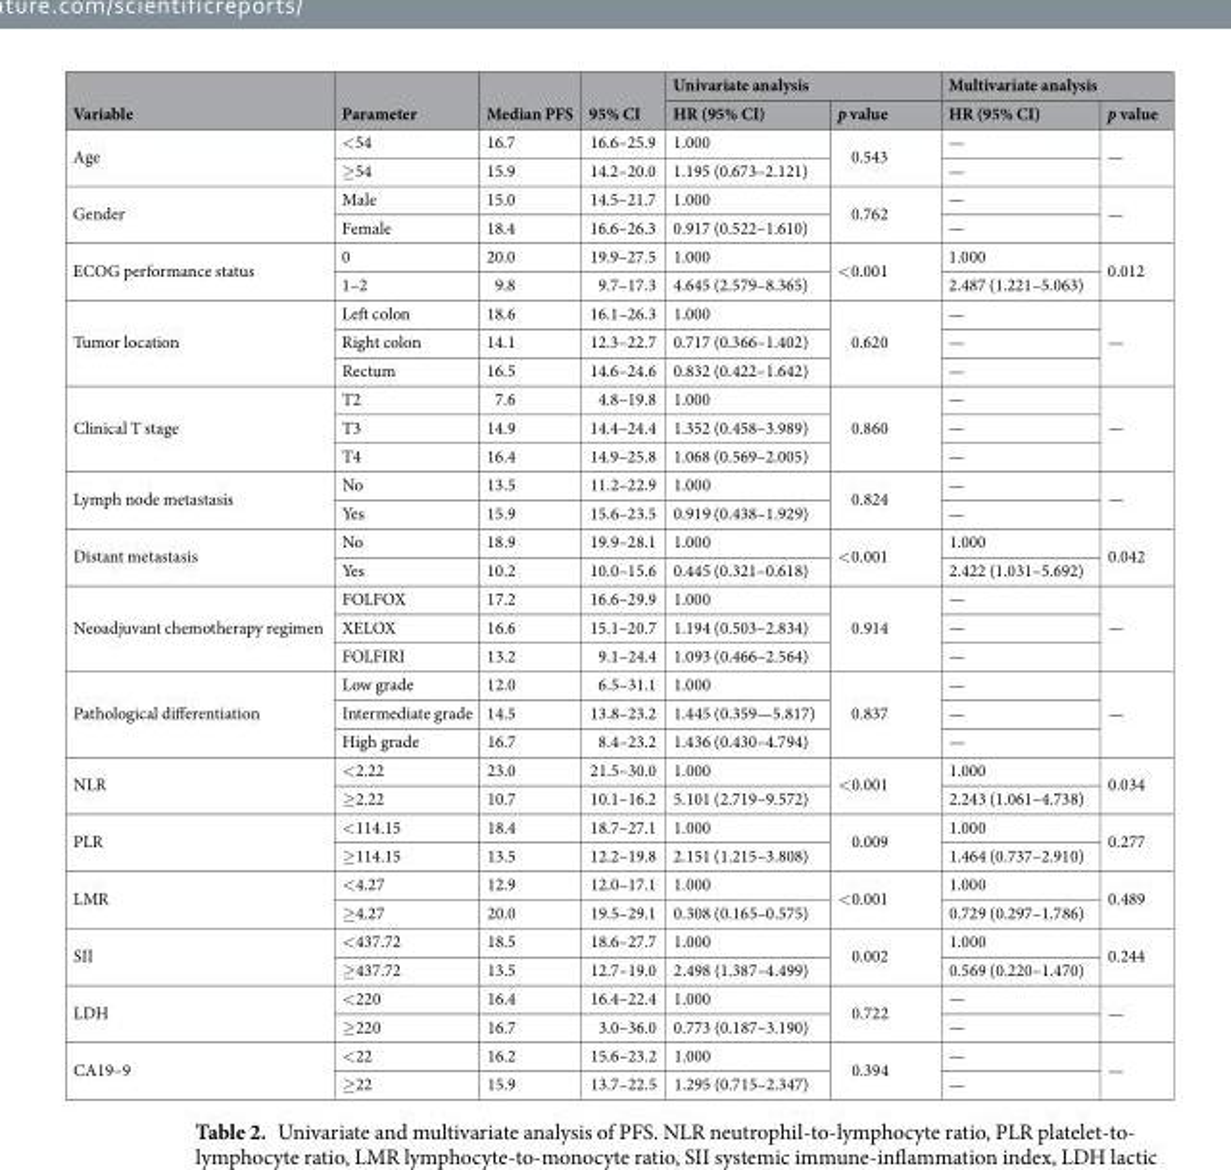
<table><thead><tr><td rowspan="2">Variable</td><td rowspan="2">Parameter</td><td rowspan="2">Median PFS</td><td rowspan="2">95% CI</td><td colspan="2">Univariate analysis</td><td colspan="2">Multivariate analysis</td></tr><tr><td>HR (95% CI)</td><td>p value</td><td>HR (95% CI)</td><td>p value</td></tr></thead><tbody><tr><td rowspan="2">Age</td><td>&lt;54</td><td>16.7</td><td>16.6–25.9</td><td>1.000</td><td rowspan="2">0.543</td><td>—</td><td rowspan="2">—</td></tr><tr><td>≥54</td><td>15.9</td><td>14.2–20.0</td><td>1.195 (0.673–2.121)</td><td>—</td></tr><tr><td rowspan="2">Gender</td><td>Male</td><td>15.0</td><td>14.5–21.7</td><td>1.000</td><td rowspan="2">0.762</td><td>—</td><td rowspan="2">—</td></tr><tr><td>Female</td><td>18.4</td><td>16.6–26.3</td><td>0.917 (0.522–1.610)</td><td>—</td></tr><tr><td rowspan="2">ECOG performance status</td><td>0</td><td>20.0</td><td>19.9–27.5</td><td>1.000</td><td rowspan="2">&lt;0.001</td><td>1.000</td><td rowspan="2">0.012</td></tr><tr><td>1–2</td><td>9.8</td><td>9.7–17.3</td><td>4.645 (2.579–8.365)</td><td>2.487 (1.221–5.063)</td></tr><tr><td rowspan="3">Tumor location</td><td>Left colon</td><td>18.6</td><td>16.1–26.3</td><td>1.000</td><td rowspan="3">0.620</td><td>—</td><td rowspan="3">—</td></tr><tr><td>Right colon</td><td>14.1</td><td>12.3–22.7</td><td>0.717 (0.366–1.402)</td><td>—</td></tr><tr><td>Rectum</td><td>16.5</td><td>14.6–24.6</td><td>0.832 (0.422–1.642)</td><td>—</td></tr><tr><td rowspan="3">Clinical T stage</td><td>T2</td><td>7.6</td><td>4.8–19.8</td><td>1.000</td><td rowspan="3">0.860</td><td>—</td><td rowspan="3">—</td></tr><tr><td>T3</td><td>14.9</td><td>14.4–24.4</td><td>1.352 (0.458–3.989)</td><td>—</td></tr><tr><td>T4</td><td>16.4</td><td>14.9–25.8</td><td>1.068 (0.569–2.005)</td><td>—</td></tr><tr><td rowspan="2">Lymph node metastasis</td><td>No</td><td>13.5</td><td>11.2–22.9</td><td>1.000</td><td rowspan="2">0.824</td><td>—</td><td rowspan="2">—</td></tr><tr><td>Yes</td><td>15.9</td><td>15.6–23.5</td><td>0.919 (0.438–1.929)</td><td>—</td></tr><tr><td rowspan="2">Distant metastasis</td><td>No</td><td>18.9</td><td>19.9–28.1</td><td>1.000</td><td rowspan="2">&lt;0.001</td><td>1.000</td><td rowspan="2">0.042</td></tr><tr><td>Yes</td><td>10.2</td><td>10.0–15.6</td><td>0.445 (0.321–0.618)</td><td>2.422 (1.031–5.692)</td></tr><tr><td rowspan="3">Neoadjuvant chemotherapy regimen</td><td>FOLFOX</td><td>17.2</td><td>16.6–29.9</td><td>1.000</td><td rowspan="3">0.914</td><td>—</td><td rowspan="3">—</td></tr><tr><td>XELOX</td><td>16.6</td><td>15.1–20.7</td><td>1.194 (0.503–2.834)</td><td>—</td></tr><tr><td>FOLFIRI</td><td>13.2</td><td>9.1–24.4</td><td>1.093 (0.466–2.564)</td><td>—</td></tr><tr><td rowspan="3">Pathological differentiation</td><td>Low grade</td><td>12.0</td><td>6.5–31.1</td><td>1.000</td><td rowspan="3">0.837</td><td>—</td><td rowspan="3">—</td></tr><tr><td>Intermediate grade</td><td>14.5</td><td>13.8–23.2</td><td>1.445 (0.359—5.817)</td><td>—</td></tr><tr><td>High grade</td><td>16.7</td><td>8.4–23.2</td><td>1.436 (0.430–4.794)</td><td>—</td></tr><tr><td rowspan="2">NLR</td><td>&lt;2.22</td><td>23.0</td><td>21.5–30.0</td><td>1.000</td><td rowspan="2">&lt;0.001</td><td>1.000</td><td rowspan="2">0.034</td></tr><tr><td>≥2.22</td><td>10.7</td><td>10.1–16.2</td><td>5.101 (2.719–9.572)</td><td>2.243 (1.061–4.738)</td></tr><tr><td rowspan="2">PLR</td><td>&lt;114.15</td><td>18.4</td><td>18.7–27.1</td><td>1.000</td><td rowspan="2">0.009</td><td>1.000</td><td rowspan="2">0.277</td></tr><tr><td>≥114.15</td><td>13.5</td><td>12.2–19.8</td><td>2.151 (1.215–3.808)</td><td>1.464 (0.737–2.910)</td></tr><tr><td rowspan="2">LMR</td><td>&lt;4.27</td><td>12.9</td><td>12.0–17.1</td><td>1.000</td><td rowspan="2">&lt;0.001</td><td>1.000</td><td rowspan="2">0.489</td></tr><tr><td>≥4.27</td><td>20.0</td><td>19.5–29.1</td><td>0.308 (0.165–0.575)</td><td>0.729 (0.297–1.786)</td></tr><tr><td rowspan="2">SII</td><td>&lt;437.72</td><td>18.5</td><td>18.6–27.7</td><td>1.000</td><td rowspan="2">0.002</td><td>1.000</td><td rowspan="2">0.244</td></tr><tr><td>≥437.72</td><td>13.5</td><td>12.7–19.0</td><td>2.498 (1.387–4.499)</td><td>0.569 (0.220–1.470)</td></tr><tr><td rowspan="2">LDH</td><td>&lt;220</td><td>16.4</td><td>16.4–22.4</td><td>1.000</td><td rowspan="2">0.722</td><td>—</td><td rowspan="2">—</td></tr><tr><td>≥220</td><td>16.7</td><td>3.0–36.0</td><td>0.773 (0.187–3.190)</td><td>—</td></tr><tr><td rowspan="2">CA19–9</td><td>&lt;22</td><td>16.2</td><td>15.6–23.2</td><td>1.000</td><td rowspan="2">0.394</td><td>—</td><td rowspan="2">—</td></tr><tr><td>≥22</td><td>15.9</td><td>13.7–22.5</td><td>1.295 (0.715–2.347)</td><td>—</td></tr></tbody></table>